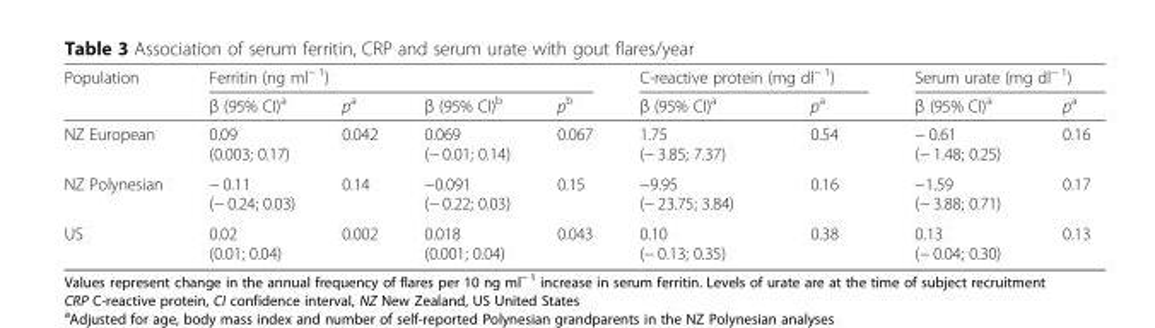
<table><thead><tr><td rowspan="2">Population</td><td colspan="4">Ferritin (ng ml<sup>− 1</sup>)</td><td colspan="2">C-reactive protein (mg dl<sup>− 1</sup>)</td><td colspan="2">Serum urate (mg dl<sup>− 1</sup>)</td></tr><tr><td>β (95% CI)<sup>a</sup></td><td>p<sup>a</sup></td><td>β (95% CI)<sup>b</sup></td><td>p<sup>b</sup></td><td>β (95% CI)<sup>a</sup></td><td>p<sup>a</sup></td><td>β (95% CI)<sup>a</sup></td><td>p<sup>a</sup></td></tr></thead><tbody><tr><td>NZ European</td><td>0.09 (0.003; 0.17)</td><td>0.042</td><td>0.069 (− 0.01; 0.14)</td><td>0.067</td><td>1.75 (− 3.85; 7.37)</td><td>0.54</td><td>− 0.61 (− 1.48; 0.25)</td><td>0.16</td></tr><tr><td>NZ Polynesian</td><td>− 0.11 (− 0.24; 0.03)</td><td>0.14</td><td>−0.091 (− 0.22; 0.03)</td><td>0.15</td><td>−9.95 (− 23.75; 3.84)</td><td>0.16</td><td>−1.59 (− 3.88; 0.71)</td><td>0.17</td></tr><tr><td>US</td><td>0.02 (0.01; 0.04)</td><td>0.002</td><td>0.018 (0.001; 0.04)</td><td>0.043</td><td>0.10 (− 0.13; 0.35)</td><td>0.38</td><td>0.13 (− 0.04; 0.30)</td><td>0.13</td></tr></tbody></table>